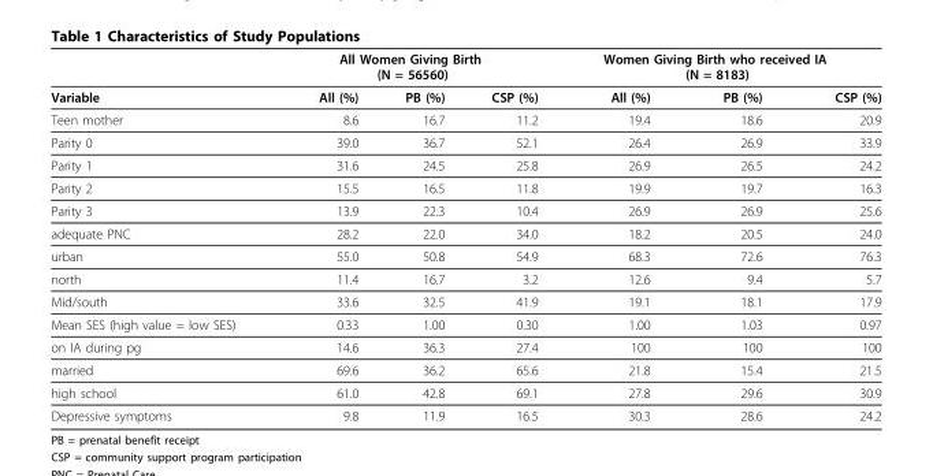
<table><thead><tr><td rowspan="2">Variable</td><td colspan="3">All Women Giving Birth (N = 56560)</td><td colspan="3">Women Giving Birth who received IA (N = 8183)</td></tr><tr><td>All (%)</td><td>PB (%)</td><td>CSP (%)</td><td>All (%)</td><td>PB (%)</td><td>CSP (%)</td></tr></thead><tbody><tr><td>Teen mother</td><td>8.6</td><td>16.7</td><td>11.2</td><td>19.4</td><td>18.6</td><td>20.9</td></tr><tr><td>Parity 0</td><td>39.0</td><td>36.7</td><td>52.1</td><td>26.4</td><td>26.9</td><td>33.9</td></tr><tr><td>Parity 1</td><td>31.6</td><td>24.5</td><td>25.8</td><td>26.9</td><td>26.5</td><td>24.2</td></tr><tr><td>Parity 2</td><td>15.5</td><td>16.5</td><td>11.8</td><td>19.9</td><td>19.7</td><td>16.3</td></tr><tr><td>Parity 3</td><td>13.9</td><td>22.3</td><td>10.4</td><td>26.9</td><td>26.9</td><td>25.6</td></tr><tr><td>adequate PNC</td><td>28.2</td><td>22.0</td><td>34.0</td><td>18.2</td><td>20.5</td><td>24.0</td></tr><tr><td>urban</td><td>55.0</td><td>50.8</td><td>54.9</td><td>68.3</td><td>72.6</td><td>76.3</td></tr><tr><td>north</td><td>11.4</td><td>16.7</td><td>3.2</td><td>12.6</td><td>9.4</td><td>5.7</td></tr><tr><td>Mid/south</td><td>33.6</td><td>32.5</td><td>41.9</td><td>19.1</td><td>18.1</td><td>17.9</td></tr><tr><td>Mean SES (high value = low SES)</td><td>0.33</td><td>1.00</td><td>0.30</td><td>1.00</td><td>1.03</td><td>0.97</td></tr><tr><td>on IA during pg</td><td>14.6</td><td>36.3</td><td>27.4</td><td>100</td><td>100</td><td>100</td></tr><tr><td>married</td><td>69.6</td><td>36.2</td><td>65.6</td><td>21.8</td><td>15.4</td><td>21.5</td></tr><tr><td>high school</td><td>61.0</td><td>42.8</td><td>69.1</td><td>27.8</td><td>29.6</td><td>30.9</td></tr><tr><td>Depressive symptoms</td><td>9.8</td><td>11.9</td><td>16.5</td><td>30.3</td><td>28.6</td><td>24.2</td></tr></tbody></table>